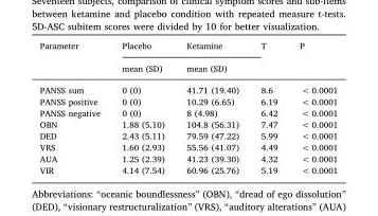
<table><thead><tr><td rowspan="2">Parameter</td><td rowspan="2">Placebo mean (SD)</td><td rowspan="2">Ketamine mean (SD)</td><td rowspan="2">T</td><td rowspan="2">P</td></tr><tr></tr></thead><tbody><tr><td>PANSS sum</td><td>0 (0)</td><td>41.71 (19.40)</td><td>8.6</td><td>&lt; 0.0001</td></tr><tr><td>PANSS positive</td><td>0 (0)</td><td>10.29 (6.65)</td><td>6.19</td><td>&lt; 0.0001</td></tr><tr><td>PANSS negative</td><td>0 (0)</td><td>8 (4.98)</td><td>6.42</td><td>&lt; 0.0001</td></tr><tr><td>OBN</td><td>1.88 (5.10)</td><td>104.8 (56.31)</td><td>7.47</td><td>&lt; 0.0001</td></tr><tr><td>DED</td><td>2.43 (5.11)</td><td>79.59 (47.22)</td><td>5.99</td><td>&lt; 0.0001</td></tr><tr><td>VRS</td><td>1.60 (2.93)</td><td>55.56 (41.07)</td><td>4.49</td><td>&lt; 0.0001</td></tr><tr><td>AUA</td><td>1.25 (2.39)</td><td>41.23 (39.30)</td><td>4.32</td><td>&lt; 0.0001</td></tr><tr><td>VIR</td><td>4.14 (7.54)</td><td>60.96 (25.76)</td><td>5.19</td><td>&lt; 0.0001</td></tr></tbody></table>